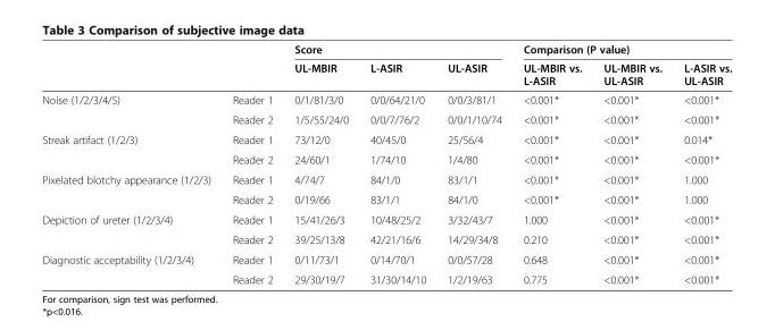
<table><thead><tr><td rowspan="2"></td><td rowspan="2"></td><td colspan="3">Score</td><td colspan="3">Comparison (P value)</td></tr><tr><td>UL-MBIR</td><td>L-ASIR</td><td>UL-ASIR</td><td>UL-MBIR vs. L-ASIR</td><td>UL-MBIR vs. UL-ASIR</td><td>L-ASIR vs. UL-ASIR</td></tr></thead><tbody><tr><td rowspan="2">Noise (1/2/3/4/5)</td><td>Reader 1</td><td>0/1/81/3/0</td><td>0/0/64/21/0</td><td>0/0/3/81/1</td><td>&lt;0.001*</td><td>&lt;0.001*</td><td>&lt;0.001*</td></tr><tr><td>Reader 2</td><td>1/5/55/24/0</td><td>0/0/7/76/2</td><td>0/0/1/10/74</td><td>&lt;0.001*</td><td>&lt;0.001*</td><td>&lt;0.001*</td></tr><tr><td rowspan="2">Streak artifact (1/2/3)</td><td>Reader 1</td><td>73/12/0</td><td>40/45/0</td><td>25/56/4</td><td>&lt;0.001*</td><td>&lt;0.001*</td><td>0.014*</td></tr><tr><td>Reader 2</td><td>24/60/1</td><td>1/74/10</td><td>1/4/80</td><td>&lt;0.001*</td><td>&lt;0.001*</td><td>&lt;0.001*</td></tr><tr><td rowspan="2">Pixelated blotchy appearance (1/2/3)</td><td>Reader 1</td><td>4/74/7</td><td>84/1/0</td><td>83/1/1</td><td>&lt;0.001*</td><td>&lt;0.001*</td><td>1.000</td></tr><tr><td>Reader 2</td><td>0/19/66</td><td>83/1/1</td><td>84/1/0</td><td>&lt;0.001*</td><td>&lt;0.001*</td><td>1.000</td></tr><tr><td rowspan="2">Depiction of ureter (1/2/3/4)</td><td>Reader 1</td><td>15/41/26/3</td><td>10/48/25/2</td><td>3/32/43/7</td><td>1.000</td><td>&lt;0.001*</td><td>&lt;0.001*</td></tr><tr><td>Reader 2</td><td>39/25/13/8</td><td>42/21/16/6</td><td>14/29/34/8</td><td>0.210</td><td>&lt;0.001*</td><td>&lt;0.001*</td></tr><tr><td rowspan="2">Diagnostic acceptability (1/2/3/4)</td><td>Reader 1</td><td>0/11/73/1</td><td>0/14/70/1</td><td>0/0/57/28</td><td>0.648</td><td>&lt;0.001*</td><td>&lt;0.001*</td></tr><tr><td>Reader 2</td><td>29/30/19/7</td><td>31/30/14/10</td><td>1/2/19/63</td><td>0.775</td><td>&lt;0.001*</td><td>&lt;0.001*</td></tr></tbody></table>